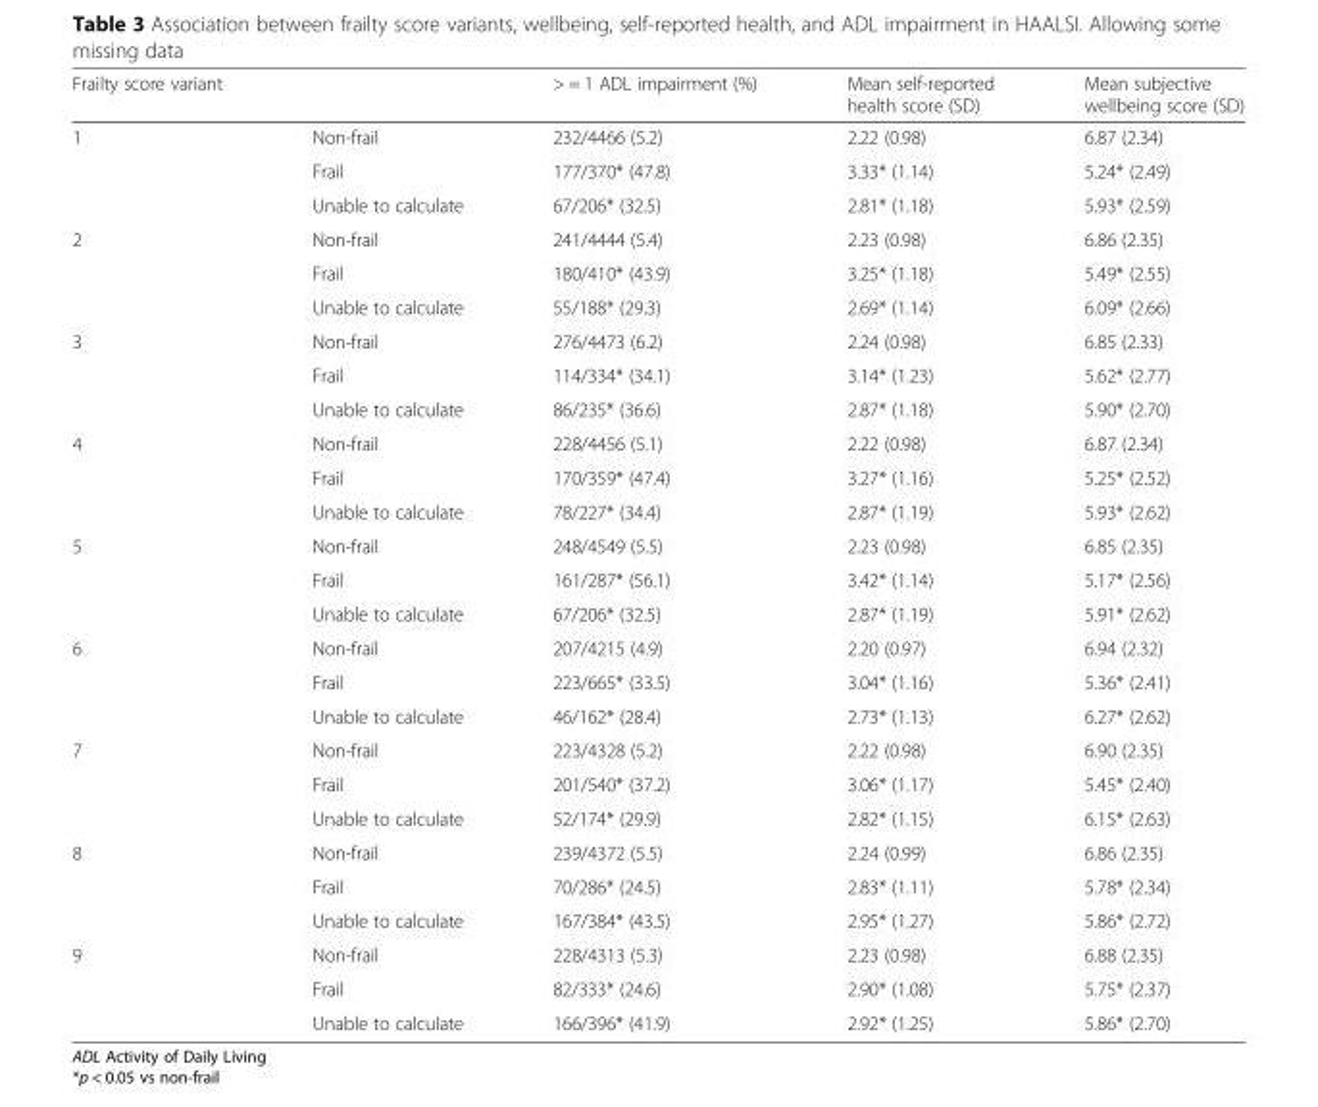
<table><thead><tr><td>Frailty score variant</td><td></td><td>&gt; = 1 ADL impairment (%)</td><td>Mean self-reported health score (SD)</td><td>Mean subjective wellbeing score (SD)</td></tr></thead><tbody><tr><td rowspan="3">1</td><td>Non-frail</td><td>232/4466 (5.2)</td><td>2.22 (0.98)</td><td>6.87 (2.34)</td></tr><tr><td>Frail</td><td>177/370* (47.8)</td><td>3.33* (1.14)</td><td>5.24* (2.49)</td></tr><tr><td>Unable to calculate</td><td>67/206* (32.5)</td><td>2.81* (1.18)</td><td>5.93* (2.59)</td></tr><tr><td rowspan="3">2</td><td>Non-frail</td><td>241/4444 (5.4)</td><td>2.23 (0.98)</td><td>6.86 (2.35)</td></tr><tr><td>Frail</td><td>180/410* (43.9)</td><td>3.25* (1.18)</td><td>5.49* (2.55)</td></tr><tr><td>Unable to calculate</td><td>55/188* (29.3)</td><td>2.69* (1.14)</td><td>6.09* (2.66)</td></tr><tr><td rowspan="3">3</td><td>Non-frail</td><td>276/4473 (6.2)</td><td>2.24 (0.98)</td><td>6.85 (2.33)</td></tr><tr><td>Frail</td><td>114/334* (34.1)</td><td>3.14* (1.23)</td><td>5.62* (2.77)</td></tr><tr><td>Unable to calculate</td><td>86/235* (36.6)</td><td>2.87* (1.18)</td><td>5.90* (2.70)</td></tr><tr><td rowspan="3">4</td><td>Non-frail</td><td>228/4456 (5.1)</td><td>2.22 (0.98)</td><td>6.87 (2.34)</td></tr><tr><td>Frail</td><td>170/359* (47.4)</td><td>3.27* (1.16)</td><td>5.25* (2.52)</td></tr><tr><td>Unable to calculate</td><td>78/227* (34.4)</td><td>2.87* (1.19)</td><td>5.93* (2.62)</td></tr><tr><td rowspan="3">5</td><td>Non-frail</td><td>248/4549 (5.5)</td><td>2.23 (0.98)</td><td>6.85 (2.35)</td></tr><tr><td>Frail</td><td>161/287* (56.1)</td><td>3.42* (1.14)</td><td>5.17* (2.56)</td></tr><tr><td>Unable to calculate</td><td>67/206* (32.5)</td><td>2.87* (1.19)</td><td>5.91* (2.62)</td></tr><tr><td rowspan="3">6</td><td>Non-frail</td><td>207/4215 (4.9)</td><td>2.20 (0.97)</td><td>6.94 (2.32)</td></tr><tr><td>Frail</td><td>223/665* (33.5)</td><td>3.04* (1.16)</td><td>5.36* (2.41)</td></tr><tr><td>Unable to calculate</td><td>46/162* (28.4)</td><td>2.73* (1.13)</td><td>6.27* (2.62)</td></tr><tr><td rowspan="3">7</td><td>Non-frail</td><td>223/4328 (5.2)</td><td>2.22 (0.98)</td><td>6.90 (2.35)</td></tr><tr><td>Frail</td><td>201/540* (37.2)</td><td>3.06* (1.17)</td><td>5.45* (2.40)</td></tr><tr><td>Unable to calculate</td><td>52/174* (29.9)</td><td>2.82* (1.15)</td><td>6.15* (2.63)</td></tr><tr><td rowspan="3">8</td><td>Non-frail</td><td>239/4372 (5.5)</td><td>2.24 (0.99)</td><td>6.86 (2.35)</td></tr><tr><td>Frail</td><td>70/286* (24.5)</td><td>2.83* (1.11)</td><td>5.78* (2.34)</td></tr><tr><td>Unable to calculate</td><td>167/384* (43.5)</td><td>2.95* (1.27)</td><td>5.86* (2.72)</td></tr><tr><td rowspan="3">9</td><td>Non-frail</td><td>228/4313 (5.3)</td><td>2.23 (0.98)</td><td>6.88 (2.35)</td></tr><tr><td>Frail</td><td>82/333* (24.6)</td><td>2.90* (1.08)</td><td>5.75* (2.37)</td></tr><tr><td>Unable to calculate</td><td>166/396* (41.9)</td><td>2.92* (1.25)</td><td>5.86* (2.70)</td></tr></tbody></table>